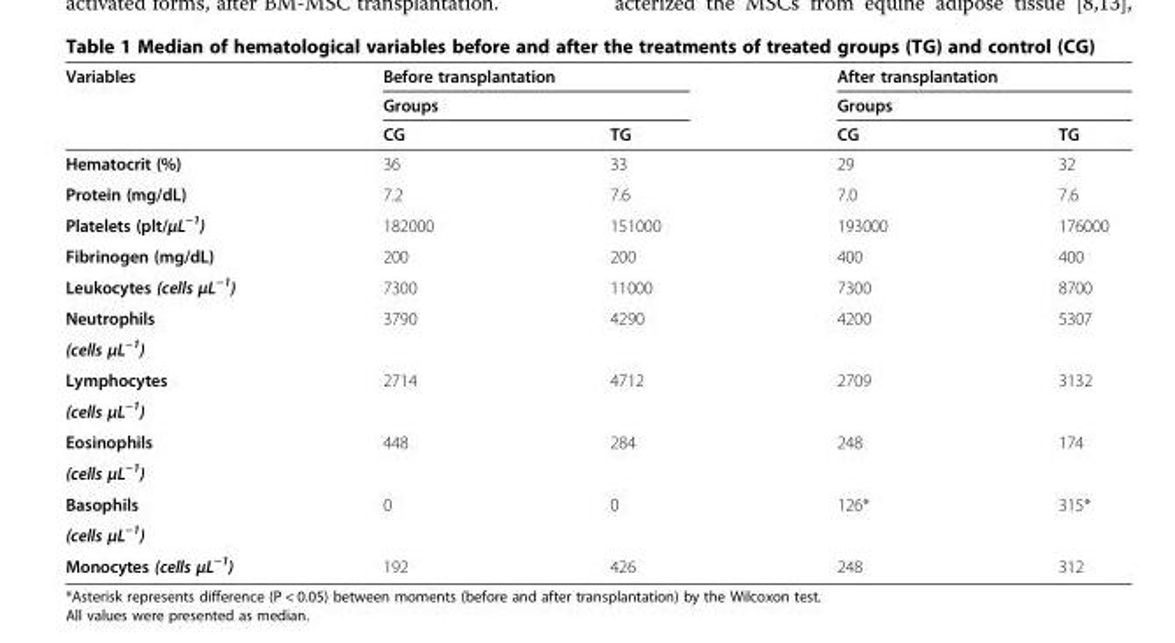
<table><thead><tr><td rowspan="3">Variables</td><td rowspan="2" colspan="2">Before transplantation Groups</td><td rowspan="2" colspan="2">After transplantation Groups</td></tr><tr></tr><tr><td>CG</td><td>TG</td><td>CG</td><td>TG</td></tr></thead><tbody><tr><td>Hematocrit (%)</td><td>36</td><td>33</td><td>29</td><td>32</td></tr><tr><td>Protein (mg/dL)</td><td>7.2</td><td>7.6</td><td>7.0</td><td>7.6</td></tr><tr><td>Platelets (plt/μL<sup>−1</sup>)</td><td>182000</td><td>151000</td><td>193000</td><td>176000</td></tr><tr><td>Fibrinogen (mg/dL)</td><td>200</td><td>200</td><td>400</td><td>400</td></tr><tr><td>Leukocytes (cells μL<sup>−1</sup>)</td><td>7300</td><td>11000</td><td>7300</td><td>8700</td></tr><tr><td>Neutrophils</td><td>3790</td><td>4290</td><td>4200</td><td>5307</td></tr><tr><td colspan="5">(cells μL<sup>−1</sup>)</td></tr><tr><td>Lymphocytes</td><td>2714</td><td>4712</td><td>2709</td><td>3132</td></tr><tr><td colspan="5">(cells μL<sup>−1</sup>)</td></tr><tr><td>Eosinophils</td><td>448</td><td>284</td><td>248</td><td>174</td></tr><tr><td colspan="5">(cells μL<sup>−1</sup>)</td></tr><tr><td>Basophils</td><td>0</td><td>0</td><td>126*</td><td>315*</td></tr><tr><td colspan="5">(cells μL<sup>−1</sup>)</td></tr><tr><td>Monocytes (cells μL<sup>−1</sup>)</td><td>192</td><td>426</td><td>248</td><td>312</td></tr></tbody></table>